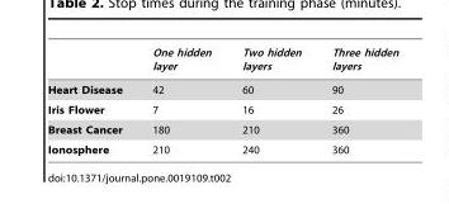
<table><thead><tr><td></td><td>One hidden layer</td><td>Two hidden layers</td><td>Three hidden layers</td></tr></thead><tbody><tr><td>Heart Disease</td><td>42</td><td>60</td><td>90</td></tr><tr><td>Iris Flower</td><td>7</td><td>16</td><td>26</td></tr><tr><td>Breast Cancer</td><td>180</td><td>210</td><td>360</td></tr><tr><td>Ionosphere</td><td>210</td><td>240</td><td>360</td></tr></tbody></table>